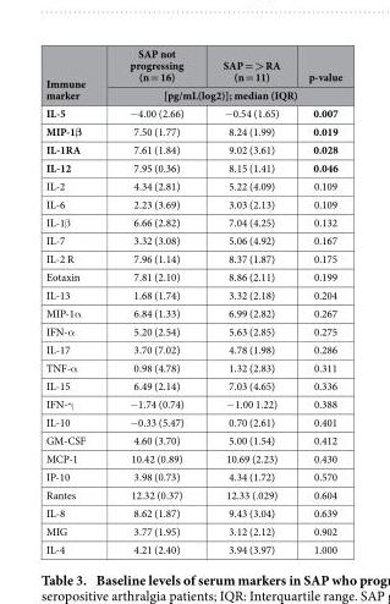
<table><thead><tr><td rowspan="2">Immune marker</td><td>SAP not progressing (n = 16)</td><td>SAP = &gt; RA (n = 11)</td><td>p-value</td></tr><tr><td colspan="3">[pg/mL(log2)]; median (IQR)</td></tr></thead><tbody><tr><td>IL-5</td><td>− 4.00 (2.66)</td><td>− 0.54 (1.65)</td><td>0.007</td></tr><tr><td>MIP-1β</td><td>7.50 (1.77)</td><td>8.24 (1.99)</td><td>0.019</td></tr><tr><td>IL-1RA</td><td>7.61 (1.84)</td><td>9.02 (3.61)</td><td>0.028</td></tr><tr><td>IL-12</td><td>7.95 (0.36)</td><td>8.15 (1.41)</td><td>0.046</td></tr><tr><td>IL-2</td><td>4.34 (2.81)</td><td>5.22 (4.09)</td><td>0.109</td></tr><tr><td>IL-6</td><td>2.23 (3.69)</td><td>3.03 (2.13)</td><td>0.109</td></tr><tr><td>IL-1β</td><td>6.66 (2.82)</td><td>7.04 (4.25)</td><td>0.132</td></tr><tr><td>IL-7</td><td>3.32 (3.08)</td><td>5.06 (4.92)</td><td>0.167</td></tr><tr><td>IL-2 R</td><td>7.96 (1.14)</td><td>8.37 (1.87)</td><td>0.175</td></tr><tr><td>Eotaxin</td><td>7.81 (2.10)</td><td>8.86 (2.11)</td><td>0.199</td></tr><tr><td>IL-13</td><td>1.68 (1.74)</td><td>3.32 (2.18)</td><td>0.204</td></tr><tr><td>MIP-1α</td><td>6.84 (1.33)</td><td>6.99 (2.82)</td><td>0.267</td></tr><tr><td>IFN-α</td><td>5.20 (2.54)</td><td>5.63 (2.85)</td><td>0.275</td></tr><tr><td>IL-17</td><td>3.70 (7.02)</td><td>4.78 (1.98)</td><td>0.286</td></tr><tr><td>TNF-α</td><td>0.98 (4.78)</td><td>1.32 (2.83)</td><td>0.311</td></tr><tr><td>IL-15</td><td>6.49 (2.14)</td><td>7.03 (4.65)</td><td>0.336</td></tr><tr><td>IFN-γ</td><td>− 1.74 (0.74)</td><td>− 1.00 1.22)</td><td>0.388</td></tr><tr><td>IL-10</td><td>− 0.33 (5.47)</td><td>0.70 (2.61)</td><td>0.401</td></tr><tr><td>GM-CSF</td><td>4.60 (3.70)</td><td>5.00 (1.54)</td><td>0.412</td></tr><tr><td>MCP-1</td><td>10.42 (0.89)</td><td>10.69 (2.23)</td><td>0.430</td></tr><tr><td>IP-10</td><td>3.98 (0.73)</td><td>4.34 (1.72)</td><td>0.570</td></tr><tr><td>Rantes</td><td>12.32 (0.37)</td><td>12.33 (.029)</td><td>0.604</td></tr><tr><td>IL-8</td><td>8.62 (1.87)</td><td>9.43 (3.04)</td><td>0.639</td></tr><tr><td>MIG</td><td>3.77 (1.95)</td><td>3.12 (2.12)</td><td>0.902</td></tr><tr><td>IL-4</td><td>4.21 (2.40)</td><td>3.94 (3.97)</td><td>1.000</td></tr></tbody></table>